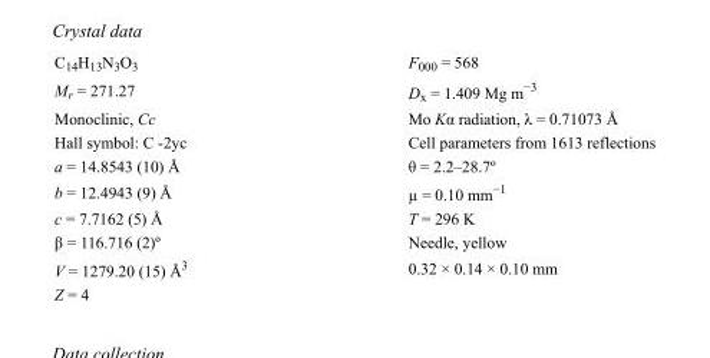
<table><tbody><tr><td>C<sub>14</sub>H<sub>13</sub>N<sub>3</sub>O<sub>3</sub></td><td>F000 = 568</td></tr><tr><td>M<sub>r</sub> = 271.27</td><td>D<sub>x</sub> = 1.409 Mg m<sup>−3</sup></td></tr><tr><td>Monoclinic, Cc</td><td>Mo Kα radiation, λ = 0.71073 Å</td></tr><tr><td>Hall symbol: C -2yc</td><td>Cell parameters from 1613 reflections</td></tr><tr><td>a = 14.8543 (10) Å</td><td>θ = 2.2–28.7º</td></tr><tr><td>b = 12.4943 (9) Å</td><td>µ = 0.10 mm<sup>−1</sup></td></tr><tr><td>c = 7.7162 (5) Å</td><td>T = 296 K</td></tr><tr><td>β = 116.716 (2)º</td><td>Needle, yellow</td></tr><tr><td>V = 1279.20 (15) Å<sup>3</sup></td><td>0.32 × 0.14 × 0.10 mm</td></tr><tr><td>Z = 4</td><td></td></tr></tbody></table>